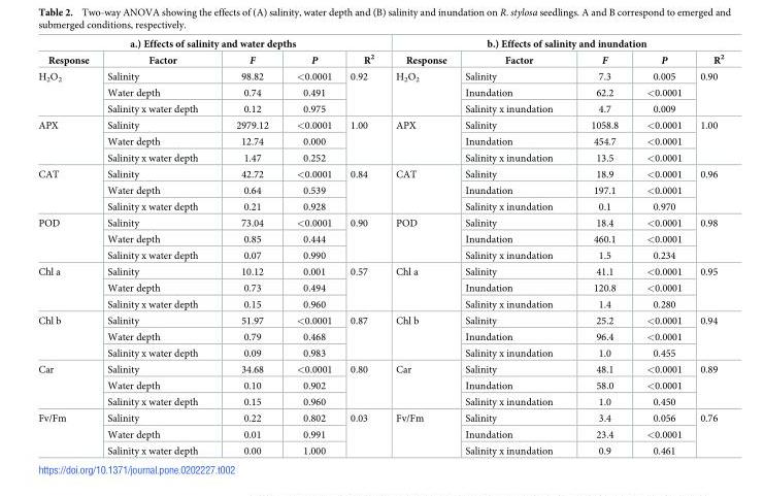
<table><thead><tr><td colspan="5">a.) Effects of salinity and water depths</td><td colspan="5">b.) Effects of salinity and inundation</td></tr><tr><td>Response</td><td>Factor</td><td>F</td><td>P</td><td>R<sup>2</sup></td><td>Response</td><td>Factor</td><td>F</td><td>P</td><td>R<sup>2</sup></td></tr></thead><tbody><tr><td rowspan="3">H<sub>2</sub>O<sub>2</sub></td><td>Salinity</td><td>98.82</td><td>&lt;0.0001</td><td rowspan="3">0.92</td><td rowspan="3">H<sub>2</sub>O<sub>2</sub></td><td>Salinity</td><td>7.3</td><td>0.005</td><td rowspan="3">0.90</td></tr><tr><td>Water depth</td><td>0.74</td><td>0.491</td><td>Inundation</td><td>62.2</td><td>&lt;0.0001</td></tr><tr><td>Salinity x water depth</td><td>0.12</td><td>0.975</td><td>Salinity x inundation</td><td>4.7</td><td>0.009</td></tr><tr><td rowspan="3">APX</td><td>Salinity</td><td>2979.12</td><td>&lt;0.0001</td><td rowspan="3">1.00</td><td rowspan="3">APX</td><td>Salinity</td><td>1058.8</td><td>&lt;0.0001</td><td rowspan="3">1.00</td></tr><tr><td>Water depth</td><td>12.74</td><td>0.000</td><td>Inundation</td><td>454.7</td><td>&lt;0.0001</td></tr><tr><td>Salinity x water depth</td><td>1.47</td><td>0.252</td><td>Salinity x inundation</td><td>13.5</td><td>&lt;0.0001</td></tr><tr><td rowspan="3">CAT</td><td>Salinity</td><td>42.72</td><td>&lt;0.0001</td><td rowspan="3">0.84</td><td rowspan="3">CAT</td><td>Salinity</td><td>18.9</td><td>&lt;0.0001</td><td rowspan="3">0.96</td></tr><tr><td>Water depth</td><td>0.64</td><td>0.539</td><td>Inundation</td><td>197.1</td><td>&lt;0.0001</td></tr><tr><td>Salinity x water depth</td><td>0.21</td><td>0.928</td><td>Salinity x inundation</td><td>0.1</td><td>0.970</td></tr><tr><td rowspan="3">POD</td><td>Salinity</td><td>73.04</td><td>&lt;0.0001</td><td rowspan="3">0.90</td><td rowspan="3">POD</td><td>Salinity</td><td>18.4</td><td>&lt;0.0001</td><td rowspan="3">0.98</td></tr><tr><td>Water depth</td><td>0.85</td><td>0.444</td><td>Inundation</td><td>460.1</td><td>&lt;0.0001</td></tr><tr><td>Salinity x water depth</td><td>0.07</td><td>0.990</td><td>Salinity x inundation</td><td>1.5</td><td>0.234</td></tr><tr><td rowspan="3">Chl a</td><td>Salinity</td><td>10.12</td><td>0.001</td><td rowspan="3">0.57</td><td rowspan="3">Chl a</td><td>Salinity</td><td>41.1</td><td>&lt;0.0001</td><td rowspan="3">0.95</td></tr><tr><td>Water depth</td><td>0.73</td><td>0.494</td><td>Inundation</td><td>120.8</td><td>&lt;0.0001</td></tr><tr><td>Salinity x water depth</td><td>0.15</td><td>0.960</td><td>Salinity x inundation</td><td>1.4</td><td>0.280</td></tr><tr><td rowspan="3">Chl b</td><td>Salinity</td><td>51.97</td><td>&lt;0.0001</td><td rowspan="3">0.87</td><td rowspan="3">Chl b</td><td>Salinity</td><td>25.2</td><td>&lt;0.0001</td><td rowspan="3">0.94</td></tr><tr><td>Water depth</td><td>0.79</td><td>0.468</td><td>Inundation</td><td>96.4</td><td>&lt;0.0001</td></tr><tr><td>Salinity x water depth</td><td>0.09</td><td>0.983</td><td>Salinity x inundation</td><td>1.0</td><td>0.455</td></tr><tr><td rowspan="3">Car</td><td>Salinity</td><td>34.68</td><td>&lt;0.0001</td><td rowspan="3">0.80</td><td rowspan="3">Car</td><td>Salinity</td><td>48.1</td><td>&lt;0.0001</td><td rowspan="3">0.89</td></tr><tr><td>Water depth</td><td>0.10</td><td>0.902</td><td>Inundation</td><td>58.0</td><td>&lt;0.0001</td></tr><tr><td>Salinity x water depth</td><td>0.15</td><td>0.960</td><td>Salinity x inundation</td><td>1.0</td><td>0.450</td></tr><tr><td rowspan="3">Fv/Fm</td><td>Salinity</td><td>0.22</td><td>0.802</td><td rowspan="3">0.03</td><td rowspan="3">Fv/Fm</td><td>Salinity</td><td>3.4</td><td>0.056</td><td rowspan="3">0.76</td></tr><tr><td>Water depth</td><td>0.01</td><td>0.991</td><td>Inundation</td><td>23.4</td><td>&lt;0.0001</td></tr><tr><td>Salinity x water depth</td><td>0.00</td><td>1.000</td><td>Salinity x inundation</td><td>0.9</td><td>0.461</td></tr></tbody></table>